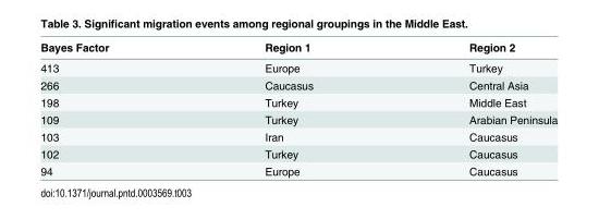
<table><thead><tr><td>Bayes Factor</td><td>Region 1</td><td>Region 2</td></tr></thead><tbody><tr><td>413</td><td>Europe</td><td>Turkey</td></tr><tr><td>266</td><td>Caucasus</td><td>Central Asia</td></tr><tr><td>198</td><td>Turkey</td><td>Middle East</td></tr><tr><td>109</td><td>Turkey</td><td>Arabian Peninsula</td></tr><tr><td>103</td><td>Iran</td><td>Caucasus</td></tr><tr><td>102</td><td>Turkey</td><td>Caucasus</td></tr><tr><td>94</td><td>Europe</td><td>Caucasus</td></tr></tbody></table>